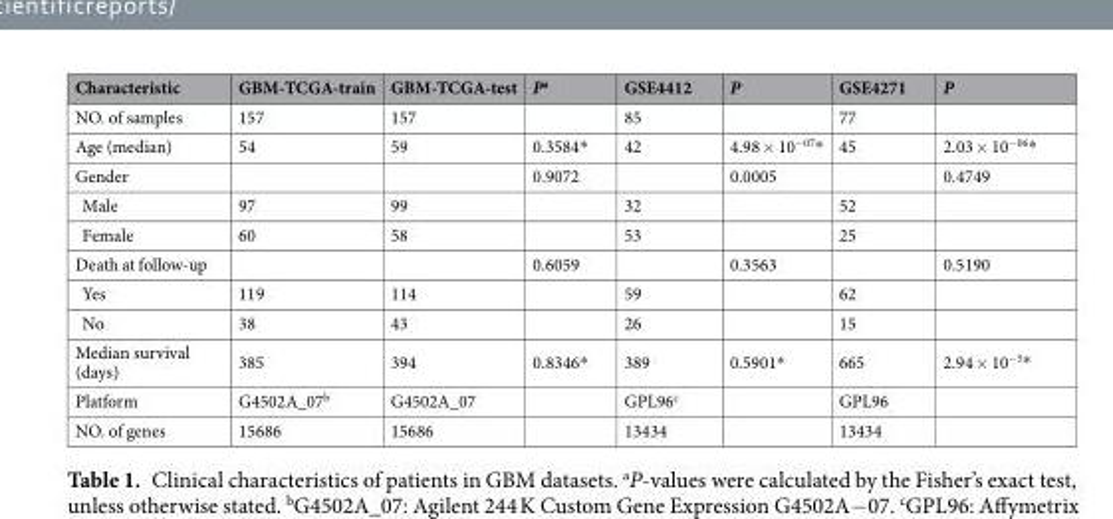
<table><thead><tr><td>Characteristic</td><td>GBM-TCGA-train</td><td>GBM-TCGA-test</td><td>P<sup>a</sup></td><td>GSE4412</td><td>P</td><td>GSE4271</td><td>P</td></tr></thead><tbody><tr><td>NO. of samples</td><td>157</td><td>157</td><td></td><td>85</td><td></td><td>77</td><td></td></tr><tr><td>Age (median)</td><td>54</td><td>59</td><td>0.3584*</td><td>42</td><td>4.98 × 10<sup>−07</sup>*</td><td>45</td><td>2.03 × 10<sup>−06</sup>*</td></tr><tr><td>Gender</td><td></td><td></td><td>0.9072</td><td></td><td>0.0005</td><td></td><td>0.4749</td></tr><tr><td>Male</td><td>97</td><td>99</td><td></td><td>32</td><td></td><td>52</td><td></td></tr><tr><td>Female</td><td>60</td><td>58</td><td></td><td>53</td><td></td><td>25</td><td></td></tr><tr><td>Death at follow-up</td><td></td><td></td><td>0.6059</td><td></td><td>0.3563</td><td></td><td>0.5190</td></tr><tr><td>Yes</td><td>119</td><td>114</td><td></td><td>59</td><td></td><td>62</td><td></td></tr><tr><td>No</td><td>38</td><td>43</td><td></td><td>26</td><td></td><td>15</td><td></td></tr><tr><td>Median survival (days)</td><td>385</td><td>394</td><td>0.8346*</td><td>389</td><td>0.5901*</td><td>665</td><td>2.94 × 10<sup>−5</sup>*</td></tr><tr><td>Platform</td><td>G4502A_07<sup>b</sup></td><td>G4502A_07</td><td></td><td>GPL96<sup>c</sup></td><td></td><td>GPL96</td><td></td></tr><tr><td>NO. of genes</td><td>15686</td><td>15686</td><td></td><td>13434</td><td></td><td>13434</td><td></td></tr></tbody></table>